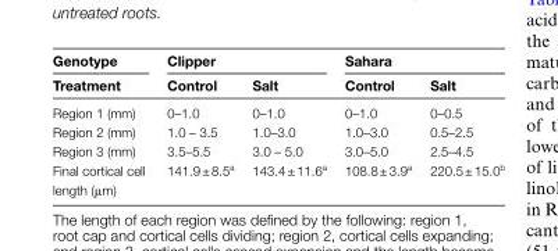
<table><thead><tr><td rowspan="2">Genotype Treatment</td><td colspan="2">Clipper</td><td colspan="2">Sahara</td></tr><tr><td>Control</td><td>Salt</td><td>Control</td><td>Salt</td></tr></thead><tbody><tr><td>Region 1 (mm)</td><td>0–1.0</td><td>0–1.0</td><td>0–1.0</td><td>0–0.5</td></tr><tr><td>Region 2 (mm)</td><td>1.0 – 3.5</td><td>1.0–3.0</td><td>1.0–3.0</td><td>0.5–2.5</td></tr><tr><td>Region 3 (mm)</td><td>3.5–5.5</td><td>3.0 – 5.0</td><td>3.0–5.0</td><td>2.5–4.5</td></tr><tr><td>Final cortical cell length (μm)</td><td>141.9 ± 8.5<sup>a</sup></td><td>143.4 ± 11.6<sup>a</sup></td><td>108.8 ± 3.9<sup>a</sup></td><td>220.5 ± 15.0<sup>b</sup></td></tr></tbody></table>